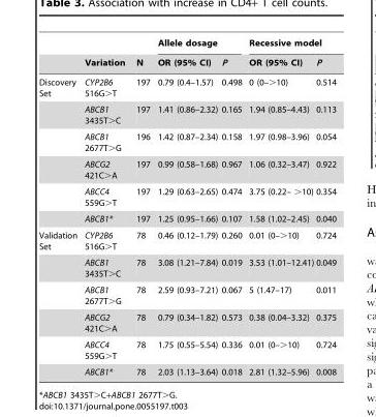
<table><thead><tr><td rowspan="2"></td><td rowspan="2">Variation</td><td rowspan="2">N</td><td colspan="2">Allele dosage</td><td colspan="2">Recessive model</td></tr><tr><td>OR (95% CI)</td><td>P</td><td>OR (95% CI)</td><td>P</td></tr></thead><tbody><tr><td rowspan="6">Discovery Set</td><td>CYP2B6 516G&gt;T</td><td>197</td><td>0.79 (0.4–1.57)</td><td>0.498</td><td>0 (0–&gt;10)</td><td>0.514</td></tr><tr><td>ABCB1 3435T&gt;C</td><td>197</td><td>1.41 (0.86–2.32)</td><td>0.165</td><td>1.94 (0.85–4.43)</td><td>0.113</td></tr><tr><td>ABCB1 2677T&gt;G</td><td>196</td><td>1.42 (0.87–2.34)</td><td>0.158</td><td>1.97 (0.98–3.96)</td><td>0.054</td></tr><tr><td>ABCG2 421C&gt;A</td><td>197</td><td>0.99 (0.58–1.68)</td><td>0.967</td><td>1.06 (0.32–3.47)</td><td>0.922</td></tr><tr><td>ABCC4 559G&gt;T</td><td>197</td><td>1.29 (0.63–2.65)</td><td>0.474</td><td>3.75 (0.22– &gt;10)</td><td>0.354</td></tr><tr><td>ABCB1*</td><td>197</td><td>1.25 (0.95–1.66)</td><td>0.107</td><td>1.58 (1.02–2.45)</td><td>0.040</td></tr><tr><td rowspan="6">Validation Set</td><td>CYP2B6 516G&gt;T</td><td>78</td><td>0.46 (0.12–1.79)</td><td>0.260</td><td>0.01 (0–&gt;10)</td><td>0.724</td></tr><tr><td>ABCB1 3435T&gt;C</td><td>78</td><td>3.08 (1.21–7.84)</td><td>0.019</td><td>3.53 (1.01–12.41)</td><td>0.049</td></tr><tr><td>ABCB1 2677T&gt;G</td><td>78</td><td>2.59 (0.93–7.21)</td><td>0.067</td><td>5 (1.47–17)</td><td>0.011</td></tr><tr><td>ABCG2 421C&gt;A</td><td>78</td><td>0.79 (0.34–1.82)</td><td>0.573</td><td>0.38 (0.04–3.32)</td><td>0.375</td></tr><tr><td>ABCC4 559G&gt;T</td><td>78</td><td>1.75 (0.55–5.54)</td><td>0.336</td><td>0.01 (0–&gt;10)</td><td>0.724</td></tr><tr><td>ABCB1*</td><td>78</td><td>2.03 (1.13–3.64)</td><td>0.018</td><td>2.81 (1.32–5.96)</td><td>0.008</td></tr></tbody></table>